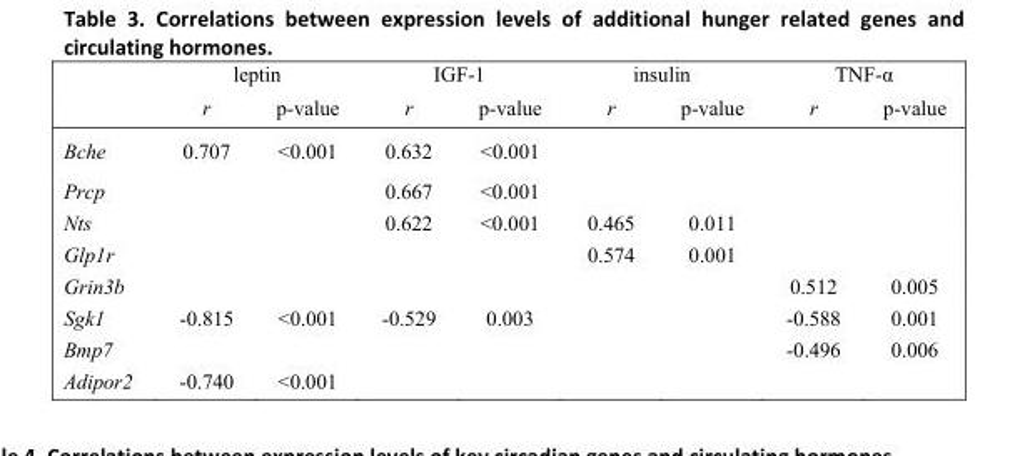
<table><thead><tr><td rowspan="2"></td><td colspan="2">leptin</td><td colspan="2">IGF-1</td><td colspan="2">insulin</td><td colspan="2">TNF-α</td></tr><tr><td>r</td><td>p-value</td><td>r</td><td>p-value</td><td>r</td><td>p-value</td><td>r</td><td>p-value</td></tr></thead><tbody><tr><td>Bche</td><td>0.707</td><td>&lt;0.001</td><td>0.632</td><td>&lt;0.001</td><td></td><td></td><td></td><td></td></tr><tr><td>Prcp</td><td></td><td></td><td>0.667</td><td>&lt;0.001</td><td></td><td></td><td></td><td></td></tr><tr><td>Nts</td><td></td><td></td><td>0.622</td><td>&lt;0.001</td><td>0.465</td><td>0.011</td><td></td><td></td></tr><tr><td>Glp1r</td><td></td><td></td><td></td><td></td><td>0.574</td><td>0.001</td><td></td><td></td></tr><tr><td>Grin3b</td><td></td><td></td><td></td><td></td><td></td><td></td><td>0.512</td><td>0.005</td></tr><tr><td>Sgk1</td><td>-0.815</td><td>&lt;0.001</td><td>-0.529</td><td>0.003</td><td></td><td></td><td>-0.588</td><td>0.001</td></tr><tr><td>Bmp7</td><td></td><td></td><td></td><td></td><td></td><td></td><td>-0.496</td><td>0.006</td></tr><tr><td>Adipor2</td><td>-0.740</td><td>&lt;0.001</td><td></td><td></td><td></td><td></td><td></td><td></td></tr></tbody></table>